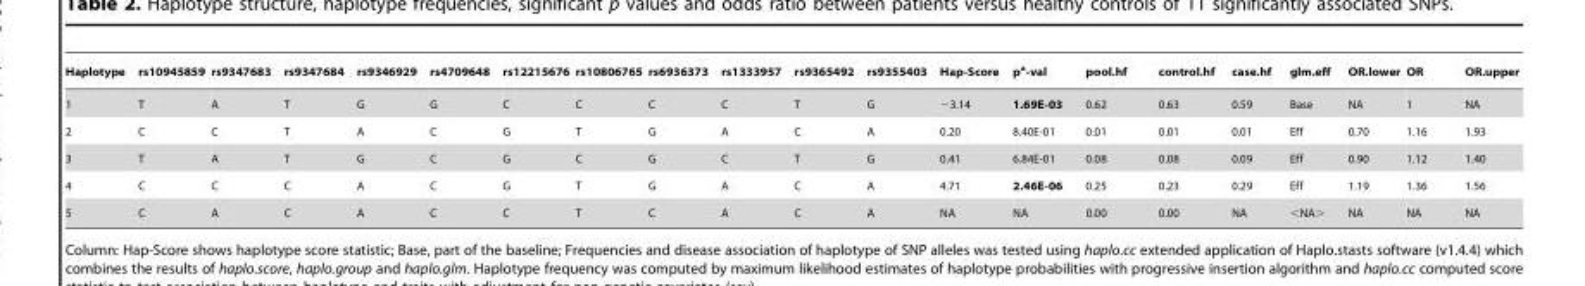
<table><thead><tr><td>Haplotype</td><td>rs10945859</td><td>rs9347683</td><td>rs9347684</td><td>rs9346929</td><td>rs4709648</td><td>rs12215676</td><td>rs10806765</td><td>rs6936373</td><td>rs1333957</td><td>rs9365492</td><td>rs9355403</td><td>Hap-Score</td><td>p<sup>a</sup>-val</td><td>pool.hf</td><td>control.hf</td><td>case.hf</td><td>glm.eff</td><td>OR.lower</td><td>OR</td><td>OR.upper</td></tr></thead><tbody><tr><td>1</td><td>T</td><td>A</td><td>T</td><td>G</td><td>G</td><td>C</td><td>C</td><td>C</td><td>C</td><td>T</td><td>G</td><td>−3.14</td><td>1.69E-03</td><td>0.62</td><td>0.63</td><td>0.59</td><td>Base</td><td>NA</td><td>1</td><td>NA</td></tr><tr><td>2</td><td>C</td><td>C</td><td>T</td><td>A</td><td>C</td><td>G</td><td>T</td><td>G</td><td>A</td><td>C</td><td>A</td><td>0.20</td><td>8.40E-01</td><td>0.01</td><td>0.01</td><td>0.01</td><td>Eff</td><td>0.70</td><td>1.16</td><td>1.93</td></tr><tr><td>3</td><td>T</td><td>A</td><td>T</td><td>G</td><td>C</td><td>G</td><td>C</td><td>G</td><td>C</td><td>T</td><td>G</td><td>0.41</td><td>6.84E-01</td><td>0.08</td><td>0.08</td><td>0.09</td><td>Eff</td><td>0.90</td><td>1.12</td><td>1.40</td></tr><tr><td>4</td><td>C</td><td>C</td><td>C</td><td>A</td><td>C</td><td>G</td><td>T</td><td>G</td><td>A</td><td>C</td><td>A</td><td>4.71</td><td>2.46E-06</td><td>0.25</td><td>0.23</td><td>0.29</td><td>Eff</td><td>1.19</td><td>1.36</td><td>1.56</td></tr><tr><td>5</td><td>C</td><td>A</td><td>C</td><td>A</td><td>C</td><td>C</td><td>T</td><td>C</td><td>A</td><td>C</td><td>A</td><td>NA</td><td>NA</td><td>0.00</td><td>0.00</td><td>NA</td><td>&lt;NA&gt;</td><td>NA</td><td>NA</td><td>NA</td></tr></tbody></table>